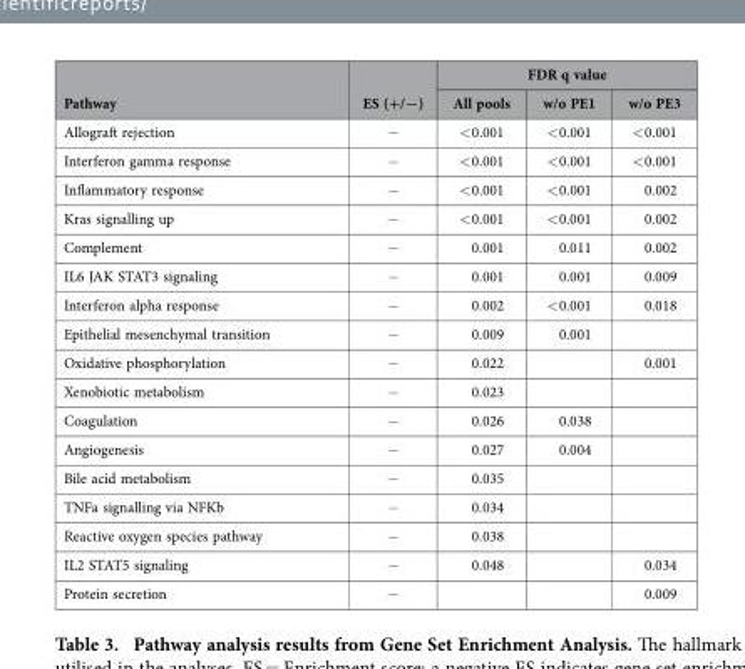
<table><thead><tr><td rowspan="2">Pathway</td><td rowspan="2">ES (+/−)</td><td colspan="3">FDR q value</td></tr><tr><td>All pools</td><td>w/o PE1</td><td>w/o PE3</td></tr></thead><tbody><tr><td>Allograft rejection</td><td>−</td><td>&lt; 0.001</td><td>&lt; 0.001</td><td>&lt; 0.001</td></tr><tr><td>Interferon gamma response</td><td>−</td><td>&lt; 0.001</td><td>&lt; 0.001</td><td>&lt; 0.001</td></tr><tr><td>Inflammatory response</td><td>−</td><td>&lt; 0.001</td><td>&lt; 0.001</td><td>0.002</td></tr><tr><td>Kras signalling up</td><td>−</td><td>&lt; 0.001</td><td>&lt; 0.001</td><td>0.002</td></tr><tr><td>Complement</td><td>−</td><td>0.001</td><td>0.011</td><td>0.002</td></tr><tr><td>IL6 JAK STAT3 signaling</td><td>−</td><td>0.001</td><td>0.001</td><td>0.009</td></tr><tr><td>Interferon alpha response</td><td>−</td><td>0.002</td><td>&lt; 0.001</td><td>0.018</td></tr><tr><td>Epithelial mesenchymal transition</td><td>−</td><td>0.009</td><td>0.001</td><td></td></tr><tr><td>Oxidative phosphorylation</td><td>−</td><td>0.022</td><td></td><td>0.001</td></tr><tr><td>Xenobiotic metabolism</td><td>−</td><td>0.023</td><td></td><td></td></tr><tr><td>Coagulation</td><td>−</td><td>0.026</td><td>0.038</td><td></td></tr><tr><td>Angiogenesis</td><td>−</td><td>0.027</td><td>0.004</td><td></td></tr><tr><td>Bile acid metabolism</td><td>−</td><td>0.035</td><td></td><td></td></tr><tr><td>TNFa signalling via NFKb</td><td>−</td><td>0.034</td><td></td><td></td></tr><tr><td>Reactive oxygen species pathway</td><td>−</td><td>0.038</td><td></td><td></td></tr><tr><td>IL2 STAT5 signaling</td><td>−</td><td>0.048</td><td></td><td>0.034</td></tr><tr><td>Protein secretion</td><td>−</td><td></td><td></td><td>0.009</td></tr></tbody></table>